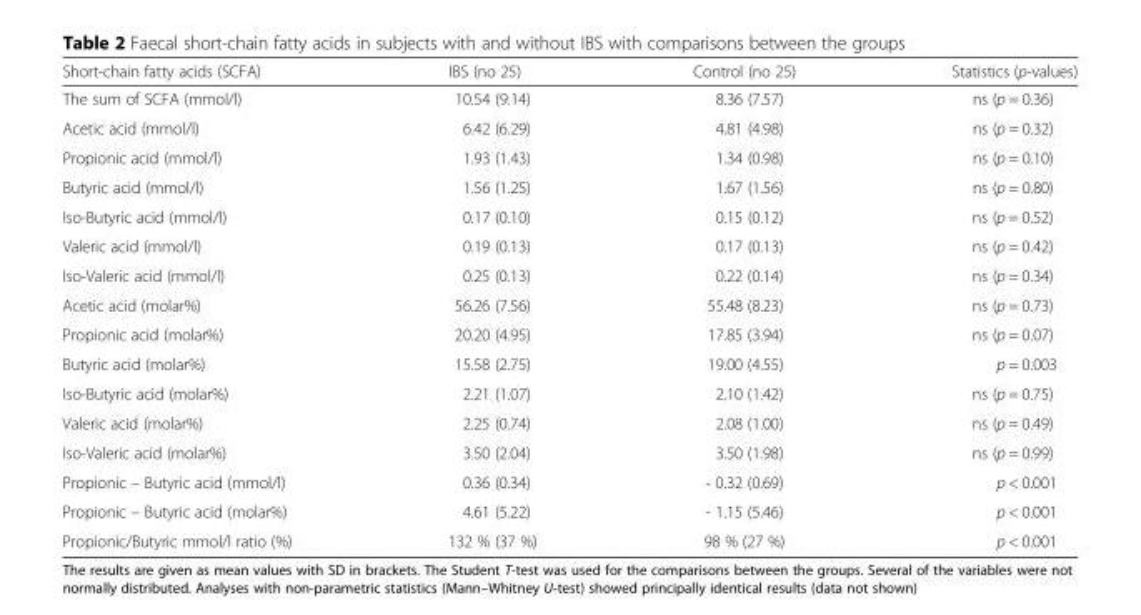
<table><thead><tr><td>Short-chain fatty acids (SCFA)</td><td>IBS (no 25)</td><td>Control (no 25)</td><td>Statistics (p-values)</td></tr></thead><tbody><tr><td>The sum of SCFA (mmol/l)</td><td>10.54 (9.14)</td><td>8.36 (7.57)</td><td>ns (p = 0.36)</td></tr><tr><td>Acetic acid (mmol/l)</td><td>6.42 (6.29)</td><td>4.81 (4.98)</td><td>ns (p = 0.32)</td></tr><tr><td>Propionic acid (mmol/l)</td><td>1.93 (1.43)</td><td>1.34 (0.98)</td><td>ns (p = 0.10)</td></tr><tr><td>Butyric acid (mmol/l)</td><td>1.56 (1.25)</td><td>1.67 (1.56)</td><td>ns (p = 0.80)</td></tr><tr><td>Iso-Butyric acid (mmol/l)</td><td>0.17 (0.10)</td><td>0.15 (0.12)</td><td>ns (p = 0.52)</td></tr><tr><td>Valeric acid (mmol/l)</td><td>0.19 (0.13)</td><td>0.17 (0.13)</td><td>ns (p = 0.42)</td></tr><tr><td>Iso-Valeric acid (mmol/l)</td><td>0.25 (0.13)</td><td>0.22 (0.14)</td><td>ns (p = 0.34)</td></tr><tr><td>Acetic acid (molar%)</td><td>56.26 (7.56)</td><td>55.48 (8.23)</td><td>ns (p = 0.73)</td></tr><tr><td>Propionic acid (molar%)</td><td>20.20 (4.95)</td><td>17.85 (3.94)</td><td>ns (p = 0.07)</td></tr><tr><td>Butyric acid (molar%)</td><td>15.58 (2.75)</td><td>19.00 (4.55)</td><td>p = 0.003</td></tr><tr><td>Iso-Butyric acid (molar%)</td><td>2.21 (1.07)</td><td>2.10 (1.42)</td><td>ns (p = 0.75)</td></tr><tr><td>Valeric acid (molar%)</td><td>2.25 (0.74)</td><td>2.08 (1.00)</td><td>ns (p = 0.49)</td></tr><tr><td>Iso-Valeric acid (molar%)</td><td>3.50 (2.04)</td><td>3.50 (1.98)</td><td>ns (p = 0.99)</td></tr><tr><td>Propionic – Butyric acid (mmol/l)</td><td>0.36 (0.34)</td><td>- 0.32 (0.69)</td><td>p &lt; 0.001</td></tr><tr><td>Propionic – Butyric acid (molar%)</td><td>4.61 (5.22)</td><td>- 1.15 (5.46)</td><td>p &lt; 0.001</td></tr><tr><td>Propionic/Butyric mmol/l ratio (%)</td><td>132 % (37 %)</td><td>98 % (27 %)</td><td>p &lt; 0.001</td></tr></tbody></table>